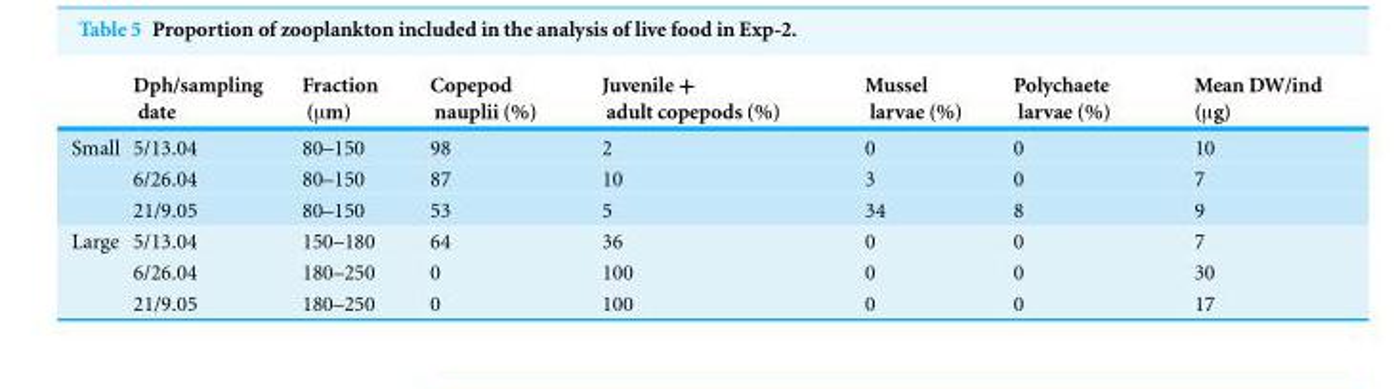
<table><thead><tr><td></td><td>Dph/sampling date</td><td>Fraction (µm)</td><td>Copepod nauplii (%)</td><td>Juvenile + adult copepods (%)</td><td>Mussel larvae (%)</td><td>Polychaete larvae (%)</td><td>Mean DW/ind (µg)</td></tr></thead><tbody><tr><td rowspan="3">Small</td><td>5/13.04</td><td>80–150</td><td>98</td><td>2</td><td>0</td><td>0</td><td>10</td></tr><tr><td>6/26.04</td><td>80–150</td><td>87</td><td>10</td><td>3</td><td>0</td><td>7</td></tr><tr><td>21/9.05</td><td>80–150</td><td>53</td><td>5</td><td>34</td><td>8</td><td>9</td></tr><tr><td rowspan="3">Large</td><td>5/13.04</td><td>150–180</td><td>64</td><td>36</td><td>0</td><td>0</td><td>7</td></tr><tr><td>6/26.04</td><td>180–250</td><td>0</td><td>100</td><td>0</td><td>0</td><td>30</td></tr><tr><td>21/9.05</td><td>180–250</td><td>0</td><td>100</td><td>0</td><td>0</td><td>17</td></tr></tbody></table>